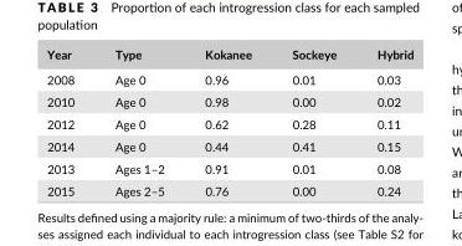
<table><thead><tr><td>Year</td><td>Type</td><td>Kokanee</td><td>Sockeye</td><td>Hybrid</td></tr></thead><tbody><tr><td>2008</td><td>Age 0</td><td>0.96</td><td>0.01</td><td>0.03</td></tr><tr><td>2010</td><td>Age 0</td><td>0.98</td><td>0.00</td><td>0.02</td></tr><tr><td>2012</td><td>Age 0</td><td>0.62</td><td>0.28</td><td>0.11</td></tr><tr><td>2014</td><td>Age 0</td><td>0.44</td><td>0.41</td><td>0.15</td></tr><tr><td>2013</td><td>Ages 1–2</td><td>0.91</td><td>0.01</td><td>0.08</td></tr><tr><td>2015</td><td>Ages 2–5</td><td>0.76</td><td>0.00</td><td>0.24</td></tr></tbody></table>